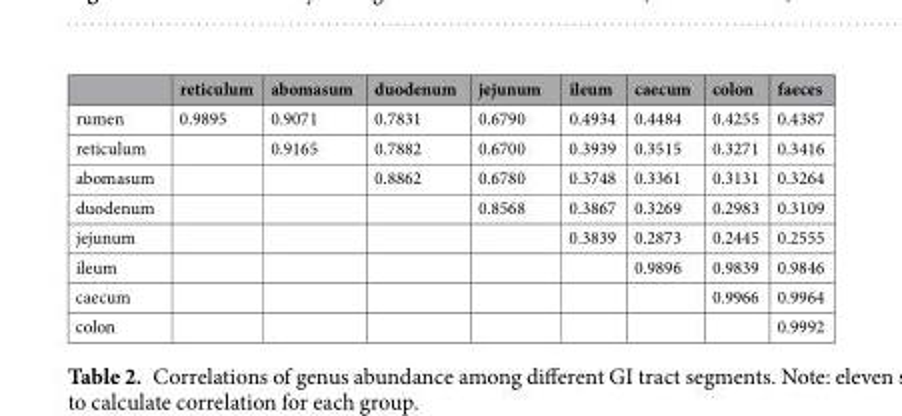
<table><thead><tr><td></td><td>reticulum</td><td>abomasum</td><td>duodenum</td><td>jejunum</td><td>ileum</td><td>caecum</td><td>colon</td><td>faeces</td></tr></thead><tbody><tr><td>rumen</td><td>0.9895</td><td>0.9071</td><td>0.7831</td><td>0.6790</td><td>0.4934</td><td>0.4484</td><td>0.4255</td><td>0.4387</td></tr><tr><td>reticulum</td><td></td><td>0.9165</td><td>0.7882</td><td>0.6700</td><td>0.3939</td><td>0.3515</td><td>0.3271</td><td>0.3416</td></tr><tr><td>abomasum</td><td></td><td></td><td>0.8862</td><td>0.6780</td><td>0.3748</td><td>0.3361</td><td>0.3131</td><td>0.3264</td></tr><tr><td>duodenum</td><td></td><td></td><td></td><td>0.8568</td><td>0.3867</td><td>0.3269</td><td>0.2983</td><td>0.3109</td></tr><tr><td>jejunum</td><td></td><td></td><td></td><td></td><td>0.3839</td><td>0.2873</td><td>0.2445</td><td>0.2555</td></tr><tr><td>ileum</td><td></td><td></td><td></td><td></td><td></td><td>0.9896</td><td>0.9839</td><td>0.9846</td></tr><tr><td>caecum</td><td></td><td></td><td></td><td></td><td></td><td></td><td>0.9966</td><td>0.9964</td></tr><tr><td>colon</td><td></td><td></td><td></td><td></td><td></td><td></td><td></td><td>0.9992</td></tr></tbody></table>